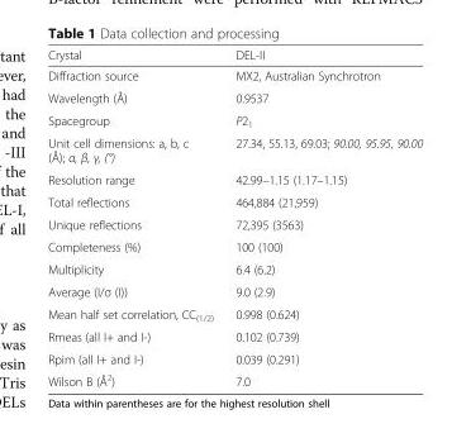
<table><thead><tr><td>Crystal</td><td>DEL-II</td></tr></thead><tbody><tr><td>Diffraction source</td><td>MX2, Australian Synchrotron</td></tr><tr><td>Wavelength (Å)</td><td>0.9537</td></tr><tr><td>Spacegroup</td><td>P2<sub>1</sub></td></tr><tr><td>Unit cell dimensions: a, b, c (Å); α, β, γ, (°)</td><td>27.34, 55.13, 69.03; 90.00, 95.95, 90.00</td></tr><tr><td>Resolution range</td><td>42.99–1.15 (1.17–1.15)</td></tr><tr><td>Total reflections</td><td>464,884 (21,959)</td></tr><tr><td>Unique reflections</td><td>72,395 (3563)</td></tr><tr><td>Completeness (%)</td><td>100 (100)</td></tr><tr><td>Multiplicity</td><td>6.4 (6.2)</td></tr><tr><td>Average (I/σ (I))</td><td>9.0 (2.9)</td></tr><tr><td>Mean half set correlation, CC<sub>(1/2)</sub></td><td>0.998 (0.624)</td></tr><tr><td>Rmeas (all I+ and I-)</td><td>0.102 (0.739)</td></tr><tr><td>Rpim (all I+ and I-)</td><td>0.039 (0.291)</td></tr><tr><td>Wilson B (Å<sup>2</sup>)</td><td>7.0</td></tr></tbody></table>